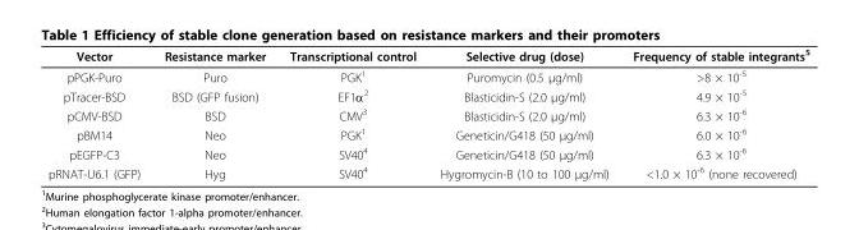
<table><thead><tr><td>Vector</td><td>Resistance marker</td><td>Transcriptional control</td><td>Selective drug (dose)</td><td>Frequency of stable integrants<sup>5</sup></td></tr></thead><tbody><tr><td>pPGK-Puro</td><td>Puro</td><td>PGK<sup>1</sup></td><td>Puromycin (0.5 μg/ml)</td><td>&gt;8 × 10<sup>-5</sup></td></tr><tr><td>pTracer-BSD</td><td>BSD (GFP fusion)</td><td>EF1α<sup>2</sup></td><td>Blasticidin-S (2.0 μg/ml)</td><td>4.9 × 10<sup>-5</sup></td></tr><tr><td>pCMV-BSD</td><td>BSD</td><td>CMV<sup>3</sup></td><td>Blasticidin-S (2.0 μg/ml)</td><td>6.3 × 10<sup>-6</sup></td></tr><tr><td>pBM14</td><td>Neo</td><td>PGK<sup>1</sup></td><td>Geneticin/G418 (50 μg/ml)</td><td>6.0 × 10<sup>-6</sup></td></tr><tr><td>pEGFP-C3</td><td>Neo</td><td>SV40<sup>4</sup></td><td>Geneticin/G418 (50 μg/ml)</td><td>6.3 × 10<sup>-6</sup></td></tr><tr><td>pRNAT-U6.1 (GFP)</td><td>Hyg</td><td>SV40<sup>4</sup></td><td>Hygromycin-B (10 to 100 μg/ml)</td><td>&lt;1.0 × 10<sup>-6</sup> (none recovered)</td></tr></tbody></table>